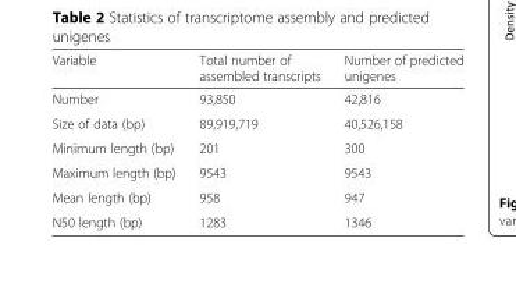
<table><thead><tr><td>Variable</td><td>Total number of assembled transcripts</td><td>Number of predicted unigenes</td></tr></thead><tbody><tr><td>Number</td><td>93,850</td><td>42,816</td></tr><tr><td>Size of data (bp)</td><td>89,919,719</td><td>40,526,158</td></tr><tr><td>Minimum length (bp)</td><td>201</td><td>300</td></tr><tr><td>Maximum length (bp)</td><td>9543</td><td>9543</td></tr><tr><td>Mean length (bp)</td><td>958</td><td>947</td></tr><tr><td>N50 length (bp)</td><td>1283</td><td>1346</td></tr></tbody></table>